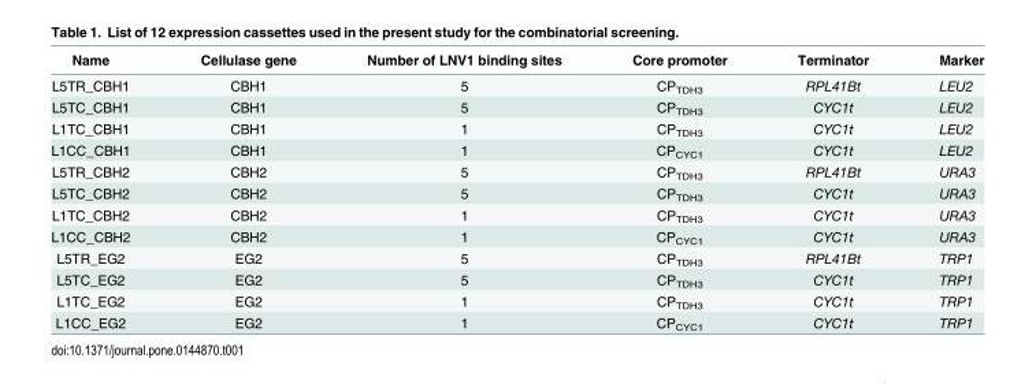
<table><thead><tr><td>Name</td><td>Cellulase gene</td><td>Number of LNV1 binding sites</td><td>Core promoter</td><td>Terminator</td><td>Marker</td></tr></thead><tbody><tr><td>L5TR_CBH1</td><td>CBH1</td><td>5</td><td>CP<sub>TDH3</sub></td><td>RPL41Bt</td><td>LEU2</td></tr><tr><td>L5TC_CBH1</td><td>CBH1</td><td>5</td><td>CP<sub>TDH3</sub></td><td>CYC1t</td><td>LEU2</td></tr><tr><td>L1TC_CBH1</td><td>CBH1</td><td>1</td><td>CP<sub>TDH3</sub></td><td>CYC1t</td><td>LEU2</td></tr><tr><td>L1CC_CBH1</td><td>CBH1</td><td>1</td><td>CP<sub>CYC1</sub></td><td>CYC1t</td><td>LEU2</td></tr><tr><td>L5TR_CBH2</td><td>CBH2</td><td>5</td><td>CP<sub>TDH3</sub></td><td>RPL41Bt</td><td>URA3</td></tr><tr><td>L5TC_CBH2</td><td>CBH2</td><td>5</td><td>CP<sub>TDH3</sub></td><td>CYC1t</td><td>URA3</td></tr><tr><td>L1TC_CBH2</td><td>CBH2</td><td>1</td><td>CP<sub>TDH3</sub></td><td>CYC1t</td><td>URA3</td></tr><tr><td>L1CC_CBH2</td><td>CBH2</td><td>1</td><td>CP<sub>CYC1</sub></td><td>CYC1t</td><td>URA3</td></tr><tr><td>L5TR_EG2</td><td>EG2</td><td>5</td><td>CP<sub>TDH3</sub></td><td>RPL41Bt</td><td>TRP1</td></tr><tr><td>L5TC_EG2</td><td>EG2</td><td>5</td><td>CP<sub>TDH3</sub></td><td>CYC1t</td><td>TRP1</td></tr><tr><td>L1TC_EG2</td><td>EG2</td><td>1</td><td>CP<sub>TDH3</sub></td><td>CYC1t</td><td>TRP1</td></tr><tr><td>L1CC_EG2</td><td>EG2</td><td>1</td><td>CP<sub>CYC1</sub></td><td>CYC1t</td><td>TRP1</td></tr></tbody></table>